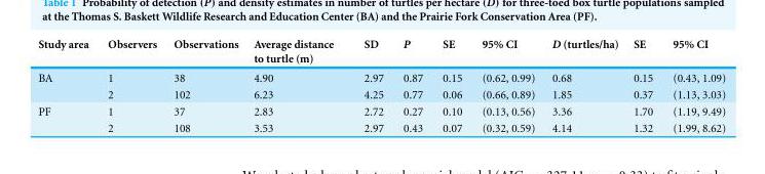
<table><thead><tr><td>Study area</td><td>Observers</td><td>Observations</td><td>Average distance to turtle (m)</td><td>SD</td><td>P</td><td>SE</td><td>95% CI</td><td>D (turtles/ha)</td><td>SE</td><td>95% CI</td></tr></thead><tbody><tr><td rowspan="2">BA</td><td>1</td><td>38</td><td>4.90</td><td>2.97</td><td>0.87</td><td>0.15</td><td>(0.62, 0.99)</td><td>0.68</td><td>0.15</td><td>(0.43, 1.09)</td></tr><tr><td>2</td><td>102</td><td>6.23</td><td>4.25</td><td>0.77</td><td>0.06</td><td>(0.66, 0.89)</td><td>1.85</td><td>0.37</td><td>(1.13, 3.03)</td></tr><tr><td rowspan="2">PF</td><td>1</td><td>37</td><td>2.83</td><td>2.72</td><td>0.27</td><td>0.10</td><td>(0.13, 0.56)</td><td>3.36</td><td>1.70</td><td>(1.19, 9.49)</td></tr><tr><td>2</td><td>108</td><td>3.53</td><td>2.97</td><td>0.43</td><td>0.07</td><td>(0.32, 0.59)</td><td>4.14</td><td>1.32</td><td>(1.99, 8.62)</td></tr></tbody></table>